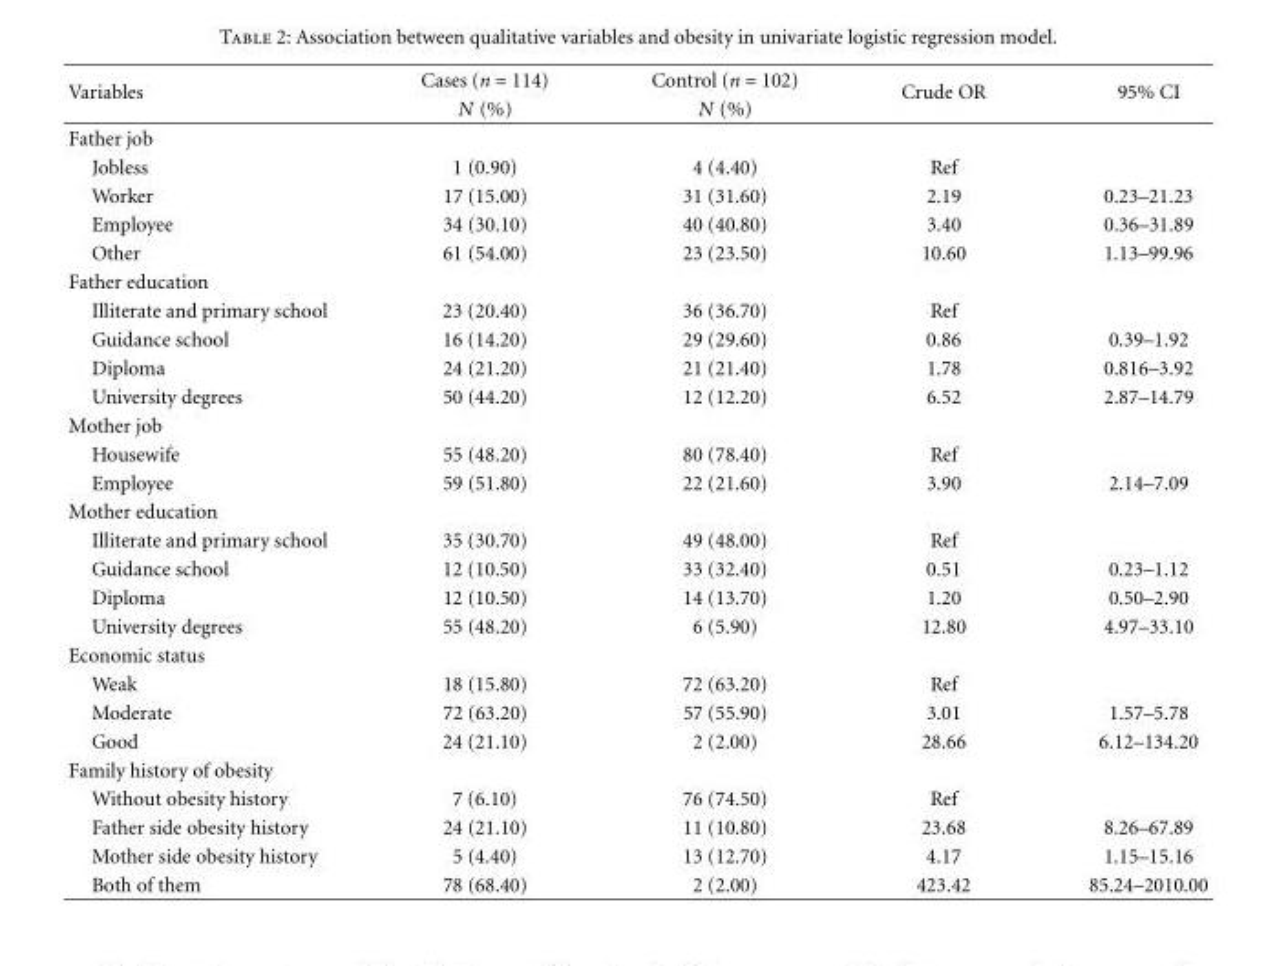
<table><thead><tr><td rowspan="2">Variables</td><td rowspan="2">Cases (n = 114) N (%)</td><td rowspan="2">Control (n = 102) N (%)</td><td rowspan="2">Crude OR</td><td rowspan="2">95% CI</td></tr><tr></tr></thead><tbody><tr><td colspan="5">Father job</td></tr><tr><td>Jobless</td><td>1 (0.90)</td><td>4 (4.40)</td><td>Ref</td><td></td></tr><tr><td>Worker</td><td>17 (15.00)</td><td>31 (31.60)</td><td>2.19</td><td>0.23–21.23</td></tr><tr><td>Employee</td><td>34 (30.10)</td><td>40 (40.80)</td><td>3.40</td><td>0.36–31.89</td></tr><tr><td>Other</td><td>61 (54.00)</td><td>23 (23.50)</td><td>10.60</td><td>1.13–99.96</td></tr><tr><td colspan="5">Father education</td></tr><tr><td>Illiterate and primary school</td><td>23 (20.40)</td><td>36 (36.70)</td><td>Ref</td><td></td></tr><tr><td>Guidance school</td><td>16 (14.20)</td><td>29 (29.60)</td><td>0.86</td><td>0.39–1.92</td></tr><tr><td>Diploma</td><td>24 (21.20)</td><td>21 (21.40)</td><td>1.78</td><td>0.816–3.92</td></tr><tr><td>University degrees</td><td>50 (44.20)</td><td>12 (12.20)</td><td>6.52</td><td>2.87–14.79</td></tr><tr><td colspan="5">Mother job</td></tr><tr><td>Housewife</td><td>55 (48.20)</td><td>80 (78.40)</td><td>Ref</td><td></td></tr><tr><td>Employee</td><td>59 (51.80)</td><td>22 (21.60)</td><td>3.90</td><td>2.14–7.09</td></tr><tr><td colspan="5">Mother education</td></tr><tr><td>Illiterate and primary school</td><td>35 (30.70)</td><td>49 (48.00)</td><td>Ref</td><td></td></tr><tr><td>Guidance school</td><td>12 (10.50)</td><td>33 (32.40)</td><td>0.51</td><td>0.23–1.12</td></tr><tr><td>Diploma</td><td>12 (10.50)</td><td>14 (13.70)</td><td>1.20</td><td>0.50–2.90</td></tr><tr><td>University degrees</td><td>55 (48.20)</td><td>6 (5.90)</td><td>12.80</td><td>4.97–33.10</td></tr><tr><td colspan="5">Economic status</td></tr><tr><td>Weak</td><td>18 (15.80)</td><td>72 (63.20)</td><td>Ref</td><td></td></tr><tr><td>Moderate</td><td>72 (63.20)</td><td>57 (55.90)</td><td>3.01</td><td>1.57–5.78</td></tr><tr><td>Good</td><td>24 (21.10)</td><td>2 (2.00)</td><td>28.66</td><td>6.12–134.20</td></tr><tr><td colspan="5">Family history of obesity</td></tr><tr><td>Without obesity history</td><td>7 (6.10)</td><td>76 (74.50)</td><td>Ref</td><td></td></tr><tr><td>Father side obesity history</td><td>24 (21.10)</td><td>11 (10.80)</td><td>23.68</td><td>8.26–67.89</td></tr><tr><td>Mother side obesity history</td><td>5 (4.40)</td><td>13 (12.70)</td><td>4.17</td><td>1.15–15.16</td></tr><tr><td>Both of them</td><td>78 (68.40)</td><td>2 (2.00)</td><td>423.42</td><td>85.24–2010.00</td></tr></tbody></table>